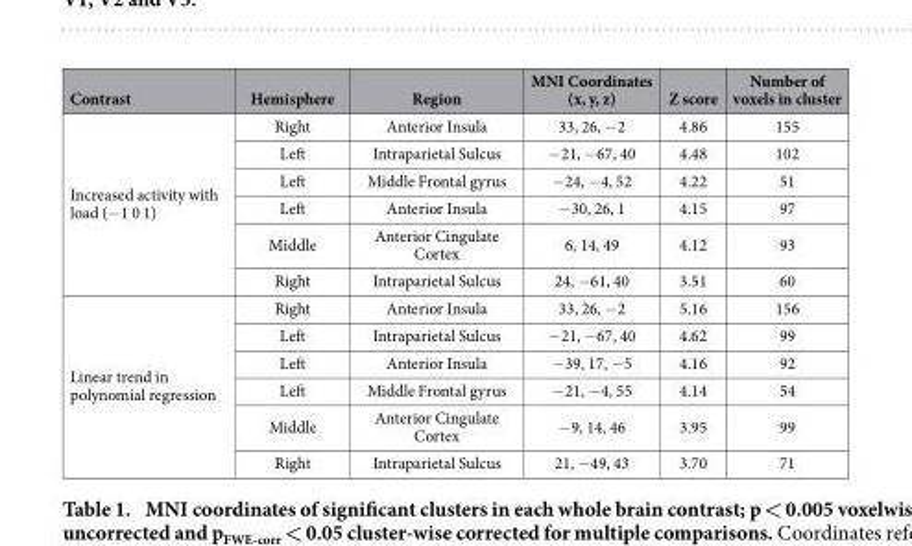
<table><thead><tr><td>Contrast</td><td>Hemisphere</td><td>Region</td><td>MNI Coordinates (x, y, z)</td><td>Z score</td><td>Number of voxels in cluster</td></tr></thead><tbody><tr><td rowspan="6">Increased activity with load (− 1 0 1)</td><td>Right</td><td>Anterior Insula</td><td>33, 26, − 2</td><td>4.86</td><td>155</td></tr><tr><td>Left</td><td>Intraparietal Sulcus</td><td>− 21, − 67, 40</td><td>4.48</td><td>102</td></tr><tr><td>Left</td><td>Middle Frontal gyrus</td><td>− 24, − 4, 52</td><td>4.22</td><td>51</td></tr><tr><td>Left</td><td>Anterior Insula</td><td>− 30, 26, 1</td><td>4.15</td><td>97</td></tr><tr><td>Middle</td><td>Anterior Cingulate Cortex</td><td>6, 14, 49</td><td>4.12</td><td>93</td></tr><tr><td>Right</td><td>Intraparietal Sulcus</td><td>24, − 61, 40</td><td>3.51</td><td>60</td></tr><tr><td rowspan="6">Linear trend in polynomial regression</td><td>Right</td><td>Anterior Insula</td><td>33, 26, − 2</td><td>5.16</td><td>156</td></tr><tr><td>Left</td><td>Intraparietal Sulcus</td><td>− 21, − 67, 40</td><td>4.62</td><td>99</td></tr><tr><td>Left</td><td>Anterior Insula</td><td>− 39, 17, − 5</td><td>4.16</td><td>92</td></tr><tr><td>Left</td><td>Middle Frontal gyrus</td><td>− 21, − 4, 55</td><td>4.14</td><td>54</td></tr><tr><td>Middle</td><td>Anterior Cingulate Cortex</td><td>− 9, 14, 46</td><td>3.95</td><td>99</td></tr><tr><td>Right</td><td>Intraparietal Sulcus</td><td>21, − 49, 43</td><td>3.70</td><td>71</td></tr></tbody></table>